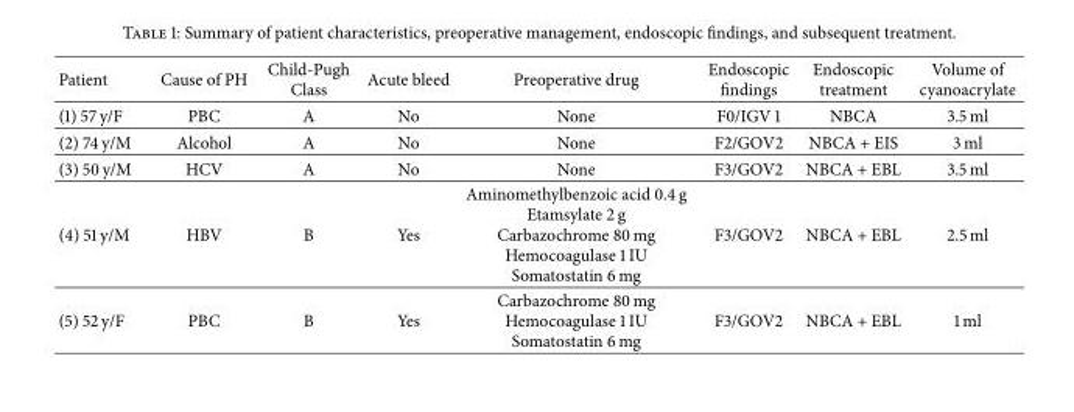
<table><thead><tr><td>Patient</td><td>Cause of PH</td><td>Child-Pugh Class</td><td>Acute bleed</td><td>Preoperative drug</td><td>Endoscopic findings</td><td>Endoscopic treatment</td><td>Volume of cyanoacrylate</td></tr></thead><tbody><tr><td>(1) 57 y/F</td><td>PBC</td><td>A</td><td>No</td><td>None</td><td>F0/IGV 1</td><td>NBCA</td><td>3.5 ml</td></tr><tr><td>(2) 74 y/M</td><td>Alcohol</td><td>A</td><td>No</td><td>None</td><td>F2/GOV2</td><td>NBCA + EIS</td><td>3 ml</td></tr><tr><td>(3) 50 y/M</td><td>HCV</td><td>A</td><td>No</td><td>None</td><td>F3/GOV2</td><td>NBCA + EBL</td><td>3.5 ml</td></tr><tr><td>(4) 51 y/M</td><td>HBV</td><td>B</td><td>Yes</td><td>Aminomethylbenzoic acid 0.4 g Etamsylate 2 g Carbazochrome 80 mg Hemocoagulase 1 IU Somatostatin 6 mg</td><td>F3/GOV2</td><td>NBCA + EBL</td><td>2.5 ml</td></tr><tr><td>(5) 52 y/F</td><td>PBC</td><td>B</td><td>Yes</td><td>Carbazochrome 80 mg Hemocoagulase 1 IU Somatostatin 6 mg</td><td>F3/GOV2</td><td>NBCA + EBL</td><td>1 ml</td></tr></tbody></table>